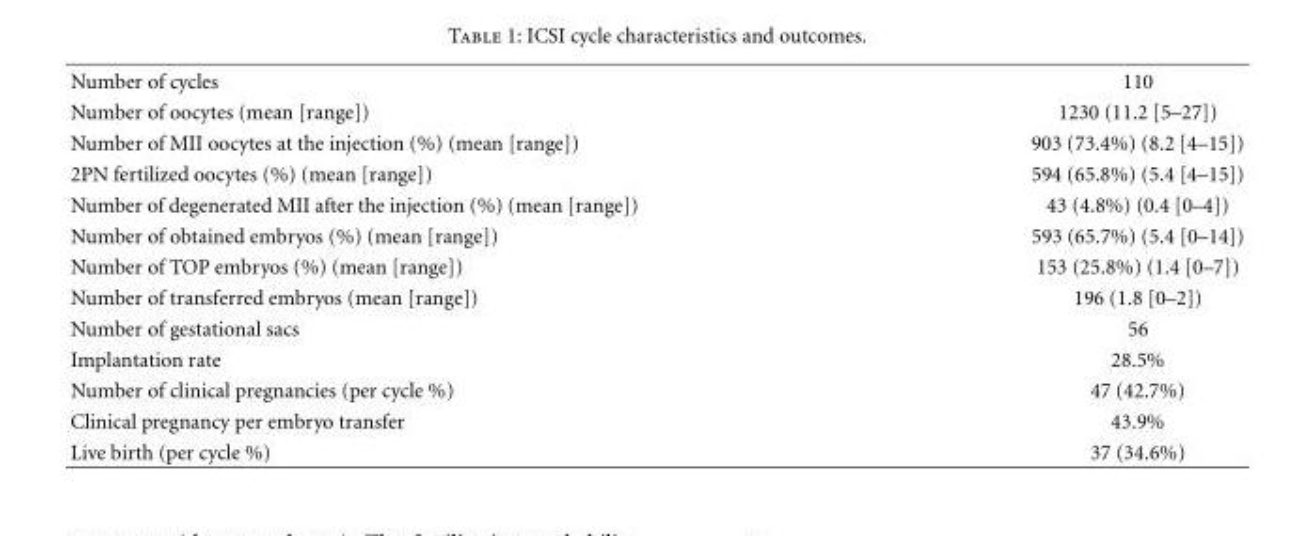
<table><tbody><tr><td>Number of cycles</td><td>110</td></tr><tr><td>Number of oocytes (mean [range])</td><td>1230 (11.2 [5–27])</td></tr><tr><td>Number of MII oocytes at the injection (%) (mean [range])</td><td>903 (73.4%) (8.2 [4–15])</td></tr><tr><td>2PN fertilized oocytes (%) (mean [range])</td><td>594 (65.8%) (5.4 [4–15])</td></tr><tr><td>Number of degenerated MII after the injection (%) (mean [range])</td><td>43 (4.8%) (0.4 [0–4])</td></tr><tr><td>Number of obtained embryos (%) (mean [range])</td><td>593 (65.7%) (5.4 [0–14])</td></tr><tr><td>Number of TOP embryos (%) (mean [range])</td><td>153 (25.8%) (1.4 [0–7])</td></tr><tr><td>Number of transferred embryos (mean [range])</td><td>196 (1.8 [0–2])</td></tr><tr><td>Number of gestational sacs</td><td>56</td></tr><tr><td>Implantation rate</td><td>28.5%</td></tr><tr><td>Number of clinical pregnancies (per cycle %)</td><td>47 (42.7%)</td></tr><tr><td>Clinical pregnancy per embryo transfer</td><td>43.9%</td></tr><tr><td>Live birth (per cycle %)</td><td>37 (34.6%)</td></tr></tbody></table>